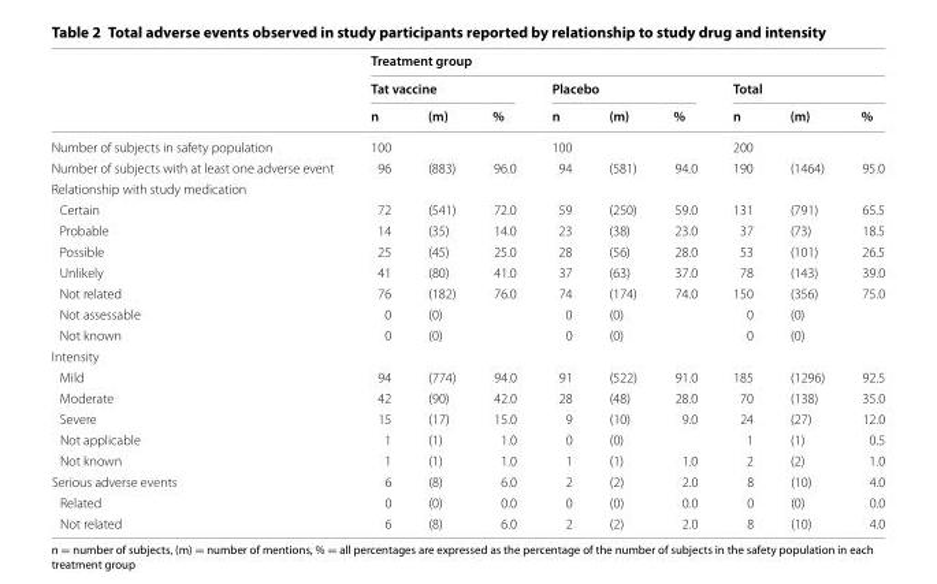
<table><thead><tr><td rowspan="3"></td><td colspan="9">Treatment group</td></tr><tr><td colspan="3">Tat vaccine</td><td colspan="3">Placebo</td><td colspan="3">Total</td></tr><tr><td>n</td><td>(m)</td><td>%</td><td>n</td><td>(m)</td><td>%</td><td>n</td><td>(m)</td><td>%</td></tr></thead><tbody><tr><td>Number of subjects in safety population</td><td>100</td><td></td><td></td><td>100</td><td></td><td></td><td>200</td><td></td><td></td></tr><tr><td>Number of subjects with at least one adverse event</td><td>96</td><td>(883)</td><td>96.0</td><td>94</td><td>(581)</td><td>94.0</td><td>190</td><td>(1464)</td><td>95.0</td></tr><tr><td colspan="10">Relationship with study medication</td></tr><tr><td>Certain</td><td>72</td><td>(541)</td><td>72.0</td><td>59</td><td>(250)</td><td>59.0</td><td>131</td><td>(791)</td><td>65.5</td></tr><tr><td>Probable</td><td>14</td><td>(35)</td><td>14.0</td><td>23</td><td>(38)</td><td>23.0</td><td>37</td><td>(73)</td><td>18.5</td></tr><tr><td>Possible</td><td>25</td><td>(45)</td><td>25.0</td><td>28</td><td>(56)</td><td>28.0</td><td>53</td><td>(101)</td><td>26.5</td></tr><tr><td>Unlikely</td><td>41</td><td>(80)</td><td>41.0</td><td>37</td><td>(63)</td><td>37.0</td><td>78</td><td>(143)</td><td>39.0</td></tr><tr><td>Not related</td><td>76</td><td>(182)</td><td>76.0</td><td>74</td><td>(174)</td><td>74.0</td><td>150</td><td>(356)</td><td>75.0</td></tr><tr><td>Not assessable</td><td>0</td><td>(0)</td><td></td><td>0</td><td>(0)</td><td></td><td>0</td><td>(0)</td><td></td></tr><tr><td>Not known</td><td>0</td><td>(0)</td><td></td><td>0</td><td>(0)</td><td></td><td>0</td><td>(0)</td><td></td></tr><tr><td colspan="10">Intensity</td></tr><tr><td>Mild</td><td>94</td><td>(774)</td><td>94.0</td><td>91</td><td>(522)</td><td>91.0</td><td>185</td><td>(1296)</td><td>92.5</td></tr><tr><td>Moderate</td><td>42</td><td>(90)</td><td>42.0</td><td>28</td><td>(48)</td><td>28.0</td><td>70</td><td>(138)</td><td>35.0</td></tr><tr><td>Severe</td><td>15</td><td>(17)</td><td>15.0</td><td>9</td><td>(10)</td><td>9.0</td><td>24</td><td>(27)</td><td>12.0</td></tr><tr><td>Not applicable</td><td>1</td><td>(1)</td><td>1.0</td><td>0</td><td>(0)</td><td></td><td>1</td><td>(1)</td><td>0.5</td></tr><tr><td>Not known</td><td>1</td><td>(1)</td><td>1.0</td><td>1</td><td>(1)</td><td>1.0</td><td>2</td><td>(2)</td><td>1.0</td></tr><tr><td>Serious adverse events</td><td>6</td><td>(8)</td><td>6.0</td><td>2</td><td>(2)</td><td>2.0</td><td>8</td><td>(10)</td><td>4.0</td></tr><tr><td>Related</td><td>0</td><td>(0)</td><td>0.0</td><td>0</td><td>(0)</td><td>0.0</td><td>0</td><td>(0)</td><td>0.0</td></tr><tr><td>Not related</td><td>6</td><td>(8)</td><td>6.0</td><td>2</td><td>(2)</td><td>2.0</td><td>8</td><td>(10)</td><td>4.0</td></tr></tbody></table>